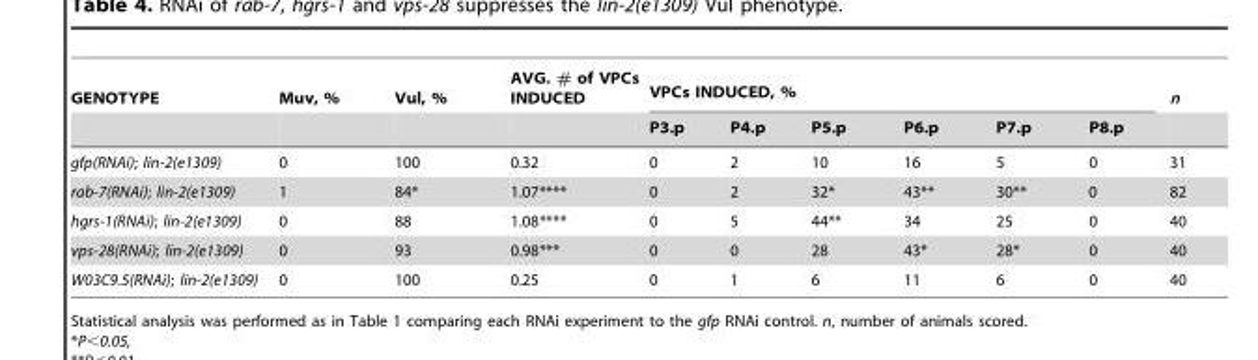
<table><thead><tr><td rowspan="2">GENOTYPE</td><td rowspan="2">Muv, %</td><td rowspan="2">Vul, %</td><td rowspan="2">AVG. # of VPCs INDUCED</td><td colspan="6">VPCs INDUCED, %</td><td rowspan="2">n</td></tr><tr><td>P3.p</td><td>P4.p</td><td>P5.p</td><td>P6.p</td><td>P7.p</td><td>P8.p</td></tr></thead><tbody><tr><td>gfp(RNAi); lin-2(e1309)</td><td>0</td><td>100</td><td>0.32</td><td>0</td><td>2</td><td>10</td><td>16</td><td>5</td><td>0</td><td>31</td></tr><tr><td>rab-7(RNAi); lin-2(e1309)</td><td>1</td><td>84*</td><td>1.07****</td><td>0</td><td>2</td><td>32*</td><td>43**</td><td>30**</td><td>0</td><td>82</td></tr><tr><td>hgrs-1(RNAi); lin-2(e1309)</td><td>0</td><td>88</td><td>1.08****</td><td>0</td><td>5</td><td>44**</td><td>34</td><td>25</td><td>0</td><td>40</td></tr><tr><td>vps-28(RNAi); lin-2(e1309)</td><td>0</td><td>93</td><td>0.98***</td><td>0</td><td>0</td><td>28</td><td>43*</td><td>28*</td><td>0</td><td>40</td></tr><tr><td>W03C9.5(RNAi); lin-2(e1309)</td><td>0</td><td>100</td><td>0.25</td><td>0</td><td>1</td><td>6</td><td>11</td><td>6</td><td>0</td><td>40</td></tr></tbody></table>